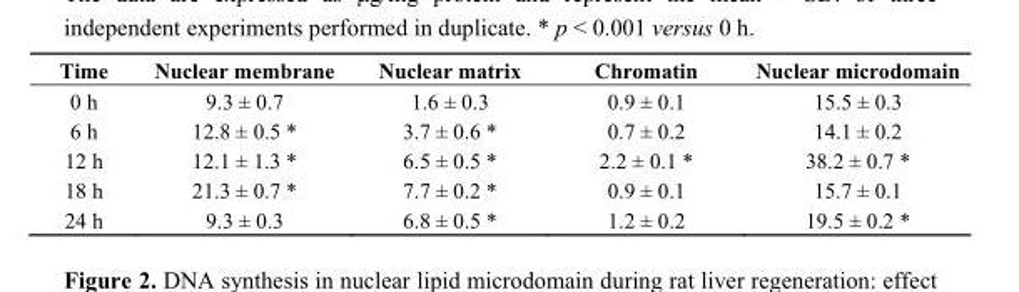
<table><thead><tr><td>Time</td><td>Nuclear membrane</td><td>Nuclear matrix</td><td>Chromatin</td><td>Nuclear microdomain</td></tr></thead><tbody><tr><td>0 h</td><td>9.3 ± 0.7</td><td>1.6 ± 0.3</td><td>0.9 ± 0.1</td><td>15.5 ± 0.3</td></tr><tr><td>6 h</td><td>12.8 ± 0.5 *</td><td>3.7 ± 0.6 *</td><td>0.7 ± 0.2</td><td>14.1 ± 0.2</td></tr><tr><td>12 h</td><td>12.1 ± 1.3 *</td><td>6.5 ± 0.5 *</td><td>2.2 ± 0.1 *</td><td>38.2 ± 0.7 *</td></tr><tr><td>18 h</td><td>21.3 ± 0.7 *</td><td>7.7 ± 0.2 *</td><td>0.9 ± 0.1</td><td>15.7 ± 0.1</td></tr><tr><td>24 h</td><td>9.3 ± 0.3</td><td>6.8 ± 0.5 *</td><td>1.2 ± 0.2</td><td>19.5 ± 0.2 *</td></tr></tbody></table>